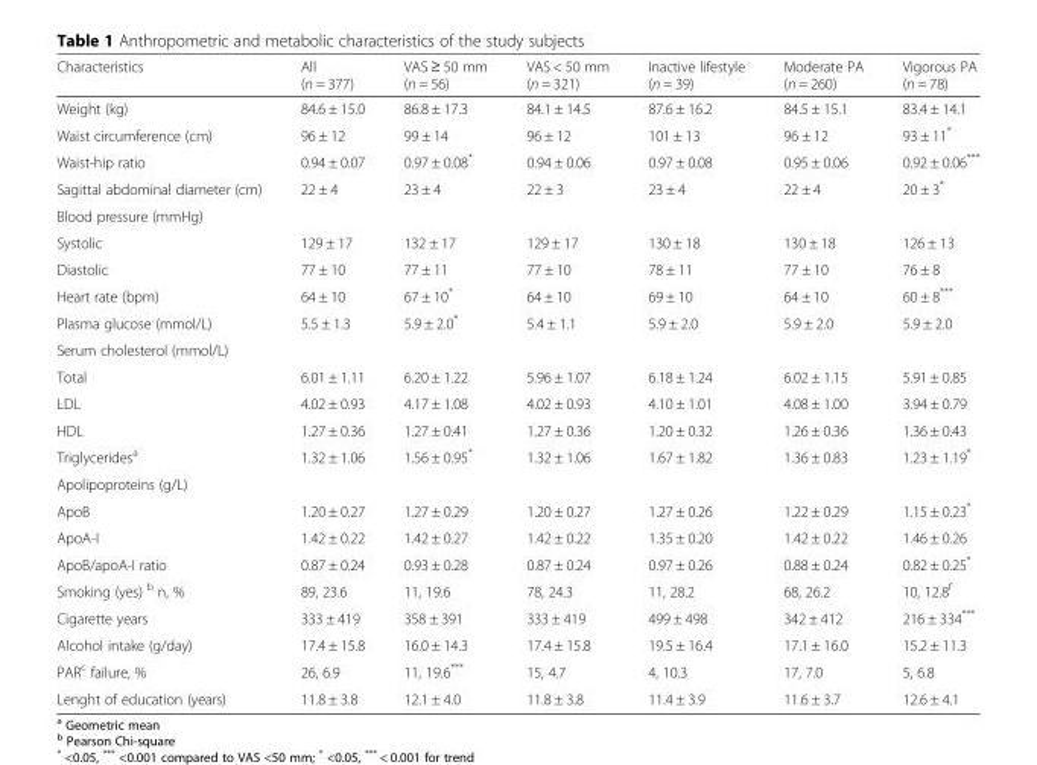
<table><thead><tr><td>Characteristics</td><td>All (n = 377)</td><td>VAS ≥ 50 mm (n = 56)</td><td>VAS &lt; 50 mm (n = 321)</td><td>Inactive lifestyle (n = 39)</td><td>Moderate PA (n = 260)</td><td>Vigorous PA (n = 78)</td></tr></thead><tbody><tr><td>Weight (kg)</td><td>84.6 ± 15.0</td><td>86.8 ± 17.3</td><td>84.1 ± 14.5</td><td>87.6 ± 16.2</td><td>84.5 ± 15.1</td><td>83.4 ± 14.1</td></tr><tr><td>Waist circumference (cm)</td><td>96 ± 12</td><td>99 ± 14</td><td>96 ± 12</td><td>101 ± 13</td><td>96 ± 12</td><td>93 ± 11*</td></tr><tr><td>Waist-hip ratio</td><td>0.94 ± 0.07</td><td>0.97 ± 0.08*</td><td>0.94 ± 0.06</td><td>0.97 ± 0.08</td><td>0.95 ± 0.06</td><td>0.92 ± 0.06***</td></tr><tr><td>Sagittal abdominal diameter (cm)</td><td>22 ± 4</td><td>23 ± 4</td><td>22 ± 3</td><td>23 ± 4</td><td>22 ± 4</td><td>20 ± 3*</td></tr><tr><td colspan="7">Blood pressure (mmHg)</td></tr><tr><td>Systolic</td><td>129 ± 17</td><td>132 ± 17</td><td>129 ± 17</td><td>130 ± 18</td><td>130 ± 18</td><td>126 ± 13</td></tr><tr><td>Diastolic</td><td>77 ± 10</td><td>77 ± 11</td><td>77 ± 10</td><td>78 ± 11</td><td>77 ± 10</td><td>76 ± 8</td></tr><tr><td>Heart rate (bpm)</td><td>64 ± 10</td><td>67 ± 10*</td><td>64 ± 10</td><td>69 ± 10</td><td>64 ± 10</td><td>60 ± 8***</td></tr><tr><td>Plasma glucose (mmol/L)</td><td>5.5 ± 1.3</td><td>5.9 ± 2.0*</td><td>5.4 ± 1.1</td><td>5.9 ± 2.0</td><td>5.9 ± 2.0</td><td>5.9 ± 2.0</td></tr><tr><td colspan="7">Serum cholesterol (mmol/L)</td></tr><tr><td>Total</td><td>6.01 ± 1.11</td><td>6.20 ± 1.22</td><td>5.96 ± 1.07</td><td>6.18 ± 1.24</td><td>6.02 ± 1.15</td><td>5.91 ± 0.85</td></tr><tr><td>LDL</td><td>4.02 ± 0.93</td><td>4.17 ± 1.08</td><td>4.02 ± 0.93</td><td>4.10 ± 1.01</td><td>4.08 ± 1.00</td><td>3.94 ± 0.79</td></tr><tr><td>HDL</td><td>1.27 ± 0.36</td><td>1.27 ± 0.41</td><td>1.27 ± 0.36</td><td>1.20 ± 0.32</td><td>1.26 ± 0.36</td><td>1.36 ± 0.43</td></tr><tr><td>Triglycerides<sup>a</sup></td><td>1.32 ± 1.06</td><td>1.56 ± 0.95*</td><td>1.32 ± 1.06</td><td>1.67 ± 1.82</td><td>1.36 ± 0.83</td><td>1.23 ± 1.19*</td></tr><tr><td colspan="7">Apolipoproteins (g/L)</td></tr><tr><td>ApoB</td><td>1.20 ± 0.27</td><td>1.27 ± 0.29</td><td>1.20 ± 0.27</td><td>1.27 ± 0.26</td><td>1.22 ± 0.29</td><td>1.15 ± 0.23*</td></tr><tr><td>ApoA-I</td><td>1.42 ± 0.22</td><td>1.42 ± 0.27</td><td>1.42 ± 0.22</td><td>1.35 ± 0.20</td><td>1.42 ± 0.22</td><td>1.46 ± 0.26</td></tr><tr><td>ApoB/apoA-I ratio</td><td>0.87 ± 0.24</td><td>0.93 ± 0.28</td><td>0.87 ± 0.24</td><td>0.97 ± 0.26</td><td>0.88 ± 0.24</td><td>0.82 ± 0.25*</td></tr><tr><td>Smoking (yes) <sup>b</sup> n, %</td><td>89, 23.6</td><td>11, 19.6</td><td>78, 24.3</td><td>11, 28.2</td><td>68, 26.2</td><td>10, 12.8<sup>f</sup></td></tr><tr><td>Cigarette years</td><td>333 ± 419</td><td>358 ± 391</td><td>333 ± 419</td><td>499 ± 498</td><td>342 ± 412</td><td>216 ± 334***</td></tr><tr><td>Alcohol intake (g/day)</td><td>17.4 ± 15.8</td><td>16.0 ± 14.3</td><td>17.4 ± 15.8</td><td>19.5 ± 16.4</td><td>17.1 ± 16.0</td><td>15.2 ± 11.3</td></tr><tr><td>PAR<sup>c</sup> failure, %</td><td>26, 6.9</td><td>11, 19.6***</td><td>15, 4.7</td><td>4, 10.3</td><td>17, 7.0</td><td>5, 6.8</td></tr><tr><td>Lenght of education (years)</td><td>11.8 ± 3.8</td><td>12.1 ± 4.0</td><td>11.8 ± 3.8</td><td>11.4 ± 3.9</td><td>11.6 ± 3.7</td><td>12.6 ± 4.1</td></tr></tbody></table>